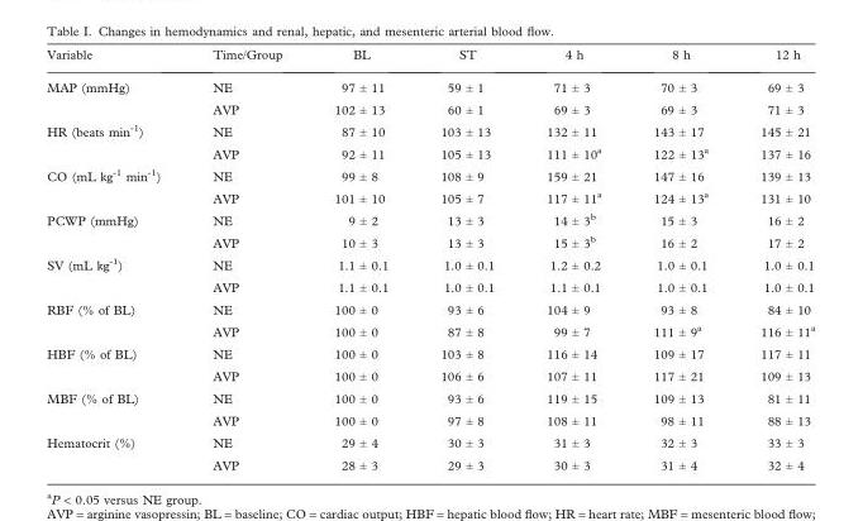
<table><thead><tr><td>Variable</td><td>Time/Group</td><td>BL</td><td>ST</td><td>4 h</td><td>8 h</td><td>12 h</td></tr></thead><tbody><tr><td rowspan="2">MAP (mmHg)</td><td>NE</td><td>97 ± 11</td><td>59 ± 1</td><td>71 ± 3</td><td>70 ± 3</td><td>69 ± 3</td></tr><tr><td>AVP</td><td>102 ± 13</td><td>60 ± 1</td><td>69 ± 3</td><td>69 ± 3</td><td>71 ± 3</td></tr><tr><td rowspan="2">HR (beats min<sup>-1</sup>)</td><td>NE</td><td>87 ± 10</td><td>103 ± 13</td><td>132 ± 11</td><td>143 ± 17</td><td>145 ± 21</td></tr><tr><td>AVP</td><td>92 ± 11</td><td>105 ± 13</td><td>111 ± 10<sup>a</sup></td><td>122 ± 13<sup>a</sup></td><td>137 ± 16</td></tr><tr><td rowspan="2">CO (mL kg<sup>-1</sup> min<sup>-1</sup>)</td><td>NE</td><td>99 ± 8</td><td>108 ± 9</td><td>159 ± 21</td><td>147 ± 16</td><td>139 ± 13</td></tr><tr><td>AVP</td><td>101 ± 10</td><td>105 ± 7</td><td>117 ± 11<sup>a</sup></td><td>124 ± 13<sup>a</sup></td><td>131 ± 10</td></tr><tr><td rowspan="2">PCWP (mmHg)</td><td>NE</td><td>9 ± 2</td><td>13 ± 3</td><td>14 ± 3<sup>b</sup></td><td>15 ± 3</td><td>16 ± 2</td></tr><tr><td>AVP</td><td>10 ± 3</td><td>13 ± 3</td><td>15 ± 3<sup>b</sup></td><td>16 ± 2</td><td>17 ± 2</td></tr><tr><td rowspan="2">SV (mL kg<sup>-1</sup>)</td><td>NE</td><td>1.1 ± 0.1</td><td>1.0 ± 0.1</td><td>1.2 ± 0.2</td><td>1.0 ± 0.1</td><td>1.0 ± 0.1</td></tr><tr><td>AVP</td><td>1.1 ± 0.1</td><td>1.0 ± 0.1</td><td>1.1 ± 0.1</td><td>1.0 ± 0.1</td><td>1.0 ± 0.1</td></tr><tr><td rowspan="2">RBF (% of BL)</td><td>NE</td><td>100 ± 0</td><td>93 ± 6</td><td>104 ± 9</td><td>93 ± 8</td><td>84 ± 10</td></tr><tr><td>AVP</td><td>100 ± 0</td><td>87 ± 8</td><td>99 ± 7</td><td>111 ± 9<sup>a</sup></td><td>116 ± 11<sup>a</sup></td></tr><tr><td rowspan="2">HBF (% of BL)</td><td>NE</td><td>100 ± 0</td><td>103 ± 8</td><td>116 ± 14</td><td>109 ± 17</td><td>117 ± 11</td></tr><tr><td>AVP</td><td>100 ± 0</td><td>106 ± 6</td><td>107 ± 11</td><td>117 ± 21</td><td>109 ± 13</td></tr><tr><td rowspan="2">MBF (% of BL)</td><td>NE</td><td>100 ± 0</td><td>93 ± 6</td><td>119 ± 15</td><td>109 ± 13</td><td>81 ± 11</td></tr><tr><td>AVP</td><td>100 ± 0</td><td>97 ± 8</td><td>108 ± 11</td><td>98 ± 11</td><td>88 ± 13</td></tr><tr><td rowspan="2">Hematocrit (%)</td><td>NE</td><td>29 ± 4</td><td>30 ± 3</td><td>31 ± 3</td><td>32 ± 3</td><td>33 ± 3</td></tr><tr><td>AVP</td><td>28 ± 3</td><td>29 ± 3</td><td>30 ± 3</td><td>31 ± 4</td><td>32 ± 4</td></tr></tbody></table>